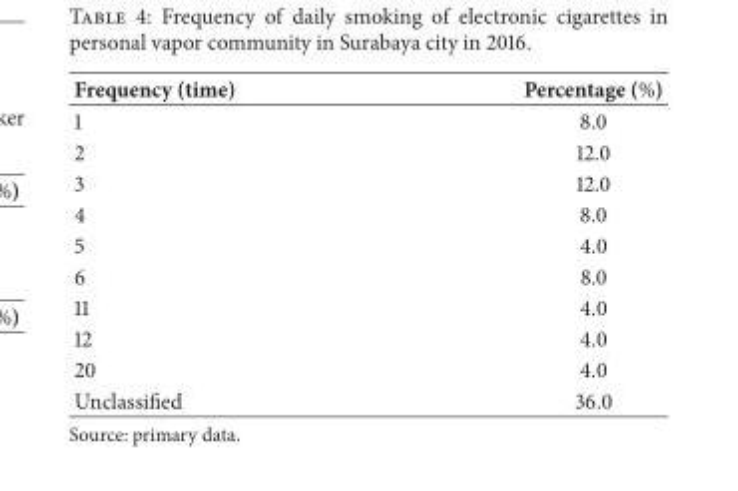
<table><thead><tr><td>Frequency (time)</td><td>Percentage (%)</td></tr></thead><tbody><tr><td>1</td><td>8.0</td></tr><tr><td>2</td><td>12.0</td></tr><tr><td>3</td><td>12.0</td></tr><tr><td>4</td><td>8.0</td></tr><tr><td>5</td><td>4.0</td></tr><tr><td>6</td><td>8.0</td></tr><tr><td>11</td><td>4.0</td></tr><tr><td>12</td><td>4.0</td></tr><tr><td>20</td><td>4.0</td></tr><tr><td>Unclassified</td><td>36.0</td></tr></tbody></table>